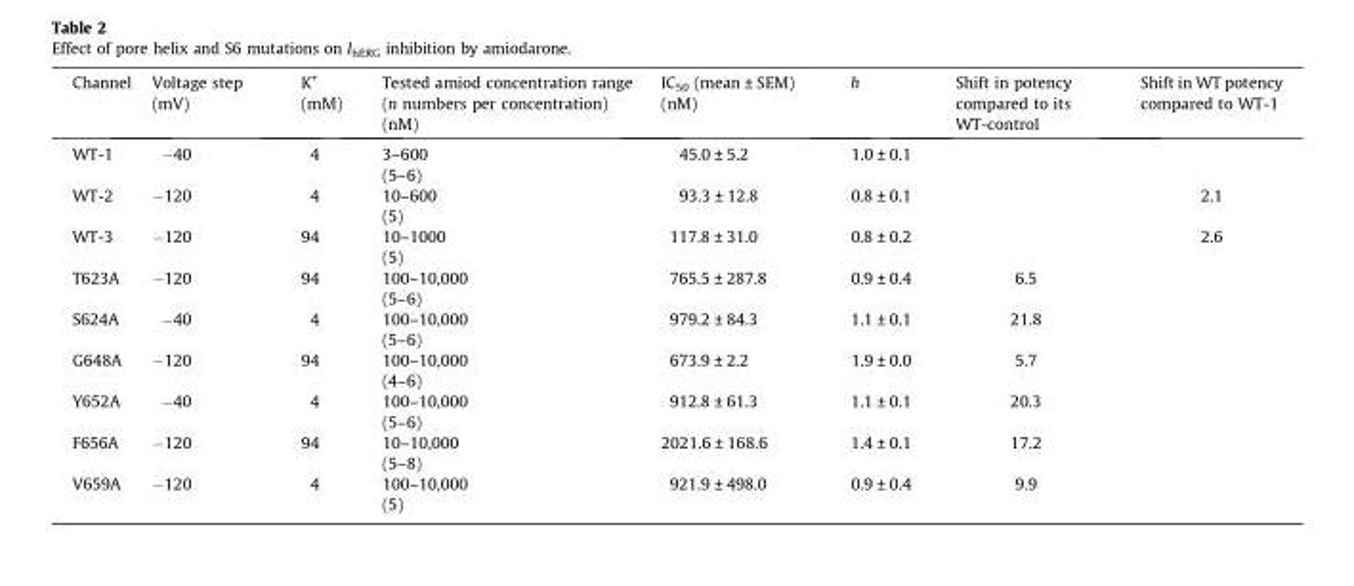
<table><thead><tr><td>Channel</td><td>Voltage step (mV)</td><td>K<sup>+</sup> (mM)</td><td>Tested amiod concentration range (n numbers per concentration) (nM)</td><td>IC<sub>50</sub> (mean ± SEM) (nM)</td><td>h</td><td>Shift in potency compared to its WT-control</td><td>Shift in WT potency compared to WT-1</td></tr></thead><tbody><tr><td>WT-1</td><td>−40</td><td>4</td><td>3–600 (5–6)</td><td>45.0 ± 5.2</td><td>1.0 ± 0.1</td><td></td><td></td></tr><tr><td>WT-2</td><td>−120</td><td>4</td><td>10–600 (5)</td><td>93.3 ± 12.8</td><td>0.8 ± 0.1</td><td></td><td>2.1</td></tr><tr><td>WT-3</td><td>−120</td><td>94</td><td>10–1000 (5)</td><td>117.8 ± 31.0</td><td>0.8 ± 0.2</td><td></td><td>2.6</td></tr><tr><td>T623A</td><td>−120</td><td>94</td><td>100–10,000 (5–6)</td><td>765.5 ± 287.8</td><td>0.9 ± 0.4</td><td>6.5</td><td></td></tr><tr><td>S624A</td><td>−40</td><td>4</td><td>100–10,000 (5–6)</td><td>979.2 ± 84.3</td><td>1.1 ± 0.1</td><td>21.8</td><td></td></tr><tr><td>G648A</td><td>−120</td><td>94</td><td>100–10,000 (4–6)</td><td>673.9 ± 2.2</td><td>1.9 ± 0.0</td><td>5.7</td><td></td></tr><tr><td>Y652A</td><td>−40</td><td>4</td><td>100–10,000 (5–6)</td><td>912.8 ± 61.3</td><td>1.1 ± 0.1</td><td>20.3</td><td></td></tr><tr><td>F656A</td><td>−120</td><td>94</td><td>10–10,000 (5–8)</td><td>2021.6 ± 168.6</td><td>1.4 ± 0.1</td><td>17.2</td><td></td></tr><tr><td>V659A</td><td>−120</td><td>4</td><td>100–10,000 (5)</td><td>921.9 ± 498.0</td><td>0.9 ± 0.4</td><td>9.9</td><td></td></tr></tbody></table>